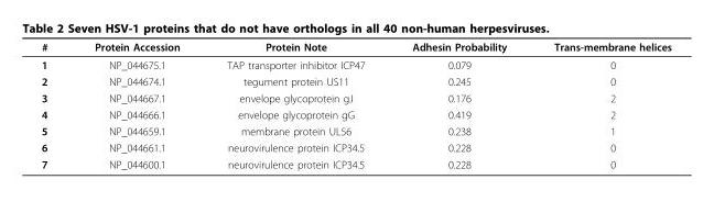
<table><thead><tr><td>#</td><td>Protein Accession</td><td>Protein Note</td><td>Adhesin Probability</td><td>Trans-membrane helices</td></tr></thead><tbody><tr><td>1</td><td>NP_044675.1</td><td>TAP transporter inhibitor ICP47</td><td>0.079</td><td>0</td></tr><tr><td>2</td><td>NP_044674.1</td><td>tegument protein US11</td><td>0.245</td><td>0</td></tr><tr><td>3</td><td>NP_044667.1</td><td>envelope glycoprotein gJ</td><td>0.176</td><td>2</td></tr><tr><td>4</td><td>NP_044666.1</td><td>envelope glycoprotein gG</td><td>0.419</td><td>2</td></tr><tr><td>5</td><td>NP_044659.1</td><td>membrane protein UL56</td><td>0.238</td><td>1</td></tr><tr><td>6</td><td>NP_044661.1</td><td>neurovirulence protein ICP34.5</td><td>0.228</td><td>0</td></tr><tr><td>7</td><td>NP_044600.1</td><td>neurovirulence protein ICP34.5</td><td>0.228</td><td>0</td></tr></tbody></table>